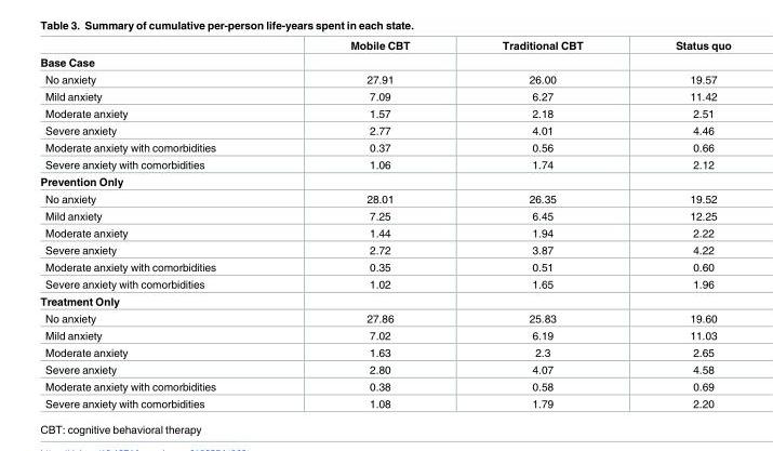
<table><thead><tr><td></td><td>Mobile CBT</td><td>Traditional CBT</td><td>Status quo</td></tr></thead><tbody><tr><td colspan="4">Base Case</td></tr><tr><td>No anxiety</td><td>27.91</td><td>26.00</td><td>19.57</td></tr><tr><td>Mild anxiety</td><td>7.09</td><td>6.27</td><td>11.42</td></tr><tr><td>Moderate anxiety</td><td>1.57</td><td>2.18</td><td>2.51</td></tr><tr><td>Severe anxiety</td><td>2.77</td><td>4.01</td><td>4.46</td></tr><tr><td>Moderate anxiety with comorbidities</td><td>0.37</td><td>0.56</td><td>0.66</td></tr><tr><td>Severe anxiety with comorbidities</td><td>1.06</td><td>1.74</td><td>2.12</td></tr><tr><td colspan="4">Prevention Only</td></tr><tr><td>No anxiety</td><td>28.01</td><td>26.35</td><td>19.52</td></tr><tr><td>Mild anxiety</td><td>7.25</td><td>6.45</td><td>12.25</td></tr><tr><td>Moderate anxiety</td><td>1.44</td><td>1.94</td><td>2.22</td></tr><tr><td>Severe anxiety</td><td>2.72</td><td>3.87</td><td>4.22</td></tr><tr><td>Moderate anxiety with comorbidities</td><td>0.35</td><td>0.51</td><td>0.60</td></tr><tr><td>Severe anxiety with comorbidities</td><td>1.02</td><td>1.65</td><td>1.96</td></tr><tr><td colspan="4">Treatment Only</td></tr><tr><td>No anxiety</td><td>27.86</td><td>25.83</td><td>19.60</td></tr><tr><td>Mild anxiety</td><td>7.02</td><td>6.19</td><td>11.03</td></tr><tr><td>Moderate anxiety</td><td>1.63</td><td>2.3</td><td>2.65</td></tr><tr><td>Severe anxiety</td><td>2.80</td><td>4.07</td><td>4.58</td></tr><tr><td>Moderate anxiety with comorbidities</td><td>0.38</td><td>0.58</td><td>0.69</td></tr><tr><td>Severe anxiety with comorbidities</td><td>1.08</td><td>1.79</td><td>2.20</td></tr></tbody></table>